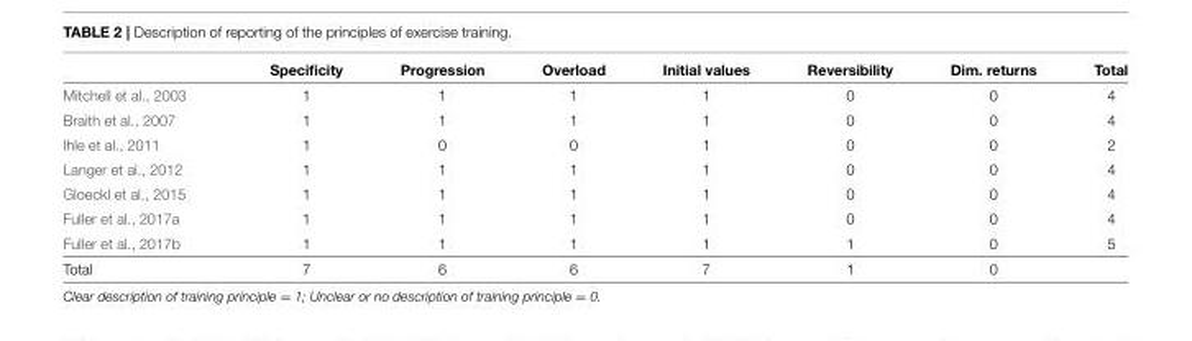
<table><thead><tr><td></td><td>Specificity</td><td>Progression</td><td>Overload</td><td>Initial values</td><td>Reversibility</td><td>Dim. returns</td><td>Total</td></tr></thead><tbody><tr><td>Mitchell et al., 2003</td><td>1</td><td>1</td><td>1</td><td>1</td><td>0</td><td>0</td><td>4</td></tr><tr><td>Braith et al., 2007</td><td>1</td><td>1</td><td>1</td><td>1</td><td>0</td><td>0</td><td>4</td></tr><tr><td>Ihle et al., 2011</td><td>1</td><td>0</td><td>0</td><td>1</td><td>0</td><td>0</td><td>2</td></tr><tr><td>Langer et al., 2012</td><td>1</td><td>1</td><td>1</td><td>1</td><td>0</td><td>0</td><td>4</td></tr><tr><td>Gloeckl et al., 2015</td><td>1</td><td>1</td><td>1</td><td>1</td><td>0</td><td>0</td><td>4</td></tr><tr><td>Fuller et al., 2017a</td><td>1</td><td>1</td><td>1</td><td>1</td><td>0</td><td>0</td><td>4</td></tr><tr><td>Fuller et al., 2017b</td><td>1</td><td>1</td><td>1</td><td>1</td><td>1</td><td>0</td><td>5</td></tr><tr><td>Total</td><td>7</td><td>6</td><td>6</td><td>7</td><td>1</td><td>0</td><td></td></tr></tbody></table>